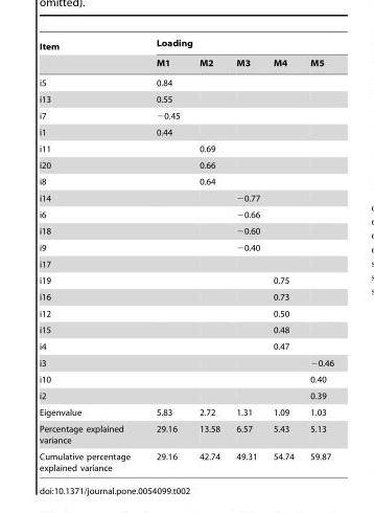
<table><thead><tr><td rowspan="2">Item</td><td colspan="5">Loading</td></tr><tr><td>M1</td><td>M2</td><td>M3</td><td>M4</td><td>M5</td></tr></thead><tbody><tr><td>i5</td><td>0.84</td><td></td><td></td><td></td><td></td></tr><tr><td>i13</td><td>0.55</td><td></td><td></td><td></td><td></td></tr><tr><td>i7</td><td>−0.45</td><td></td><td></td><td></td><td></td></tr><tr><td>i1</td><td>0.44</td><td></td><td></td><td></td><td></td></tr><tr><td>i11</td><td></td><td>0.69</td><td></td><td></td><td></td></tr><tr><td>i20</td><td></td><td>0.66</td><td></td><td></td><td></td></tr><tr><td>i8</td><td></td><td>0.64</td><td></td><td></td><td></td></tr><tr><td>i14</td><td></td><td></td><td>−0.77</td><td></td><td></td></tr><tr><td>i6</td><td></td><td></td><td>−0.66</td><td></td><td></td></tr><tr><td>i18</td><td></td><td></td><td>−0.60</td><td></td><td></td></tr><tr><td>i9</td><td></td><td></td><td>−0.40</td><td></td><td></td></tr><tr><td colspan="6">i17</td></tr><tr><td>i19</td><td></td><td></td><td></td><td>0.75</td><td></td></tr><tr><td>i16</td><td></td><td></td><td></td><td>0.73</td><td></td></tr><tr><td>i12</td><td></td><td></td><td></td><td>0.50</td><td></td></tr><tr><td>i15</td><td></td><td></td><td></td><td>0.48</td><td></td></tr><tr><td>i4</td><td></td><td></td><td></td><td>0.47</td><td></td></tr><tr><td>i3</td><td></td><td></td><td></td><td></td><td>−0.46</td></tr><tr><td>i10</td><td></td><td></td><td></td><td></td><td>0.40</td></tr><tr><td>i2</td><td></td><td></td><td></td><td></td><td>0.39</td></tr><tr><td>Eigenvalue</td><td>5.83</td><td>2.72</td><td>1.31</td><td>1.09</td><td>1.03</td></tr><tr><td>Percentage explained variance</td><td>29.16</td><td>13.58</td><td>6.57</td><td>5.43</td><td>5.13</td></tr><tr><td>Cumulative percentage explained variance</td><td>29.16</td><td>42.74</td><td>49.31</td><td>54.74</td><td>59.87</td></tr></tbody></table>